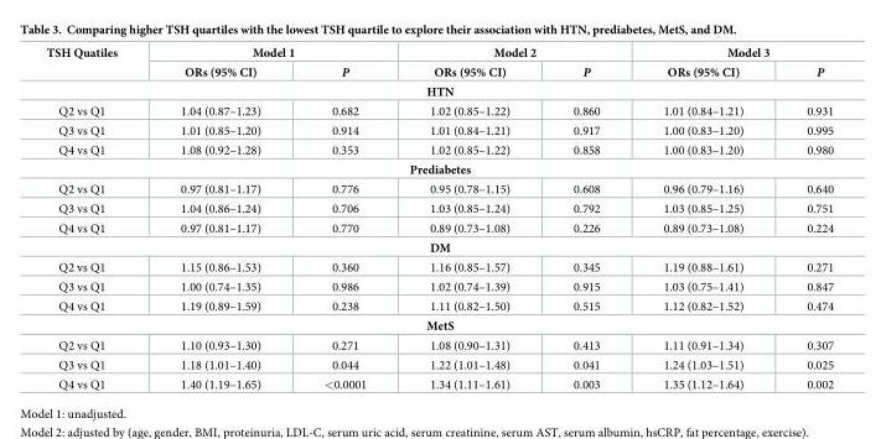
<table><thead><tr><td rowspan="2">TSH Quatiles</td><td colspan="2">Model 1</td><td colspan="2">Model 2</td><td colspan="2">Model 3</td></tr><tr><td>ORs (95% CI)</td><td>P</td><td>ORs (95% CI)</td><td>P</td><td>ORs (95% CI)</td><td>P</td></tr></thead><tbody><tr><td colspan="7">HTN</td></tr><tr><td>Q2 vs Q1</td><td>1.04 (0.87–1.23)</td><td>0.682</td><td>1.02 (0.85–1.22)</td><td>0.860</td><td>1.01 (0.84–1.21)</td><td>0.931</td></tr><tr><td>Q3 vs Q1</td><td>1.01 (0.85–1.20)</td><td>0.914</td><td>1.01 (0.84–1.21)</td><td>0.917</td><td>1.00 (0.83–1.20)</td><td>0.995</td></tr><tr><td>Q4 vs Q1</td><td>1.08 (0.92–1.28)</td><td>0.353</td><td>1.02 (0.85–1.22)</td><td>0.858</td><td>1.00 (0.83–1.20)</td><td>0.980</td></tr><tr><td colspan="7">Prediabetes</td></tr><tr><td>Q2 vs Q1</td><td>0.97 (0.81–1.17)</td><td>0.776</td><td>0.95 (0.78–1.15)</td><td>0.608</td><td>0.96 (0.79–1.16)</td><td>0.640</td></tr><tr><td>Q3 vs Q1</td><td>1.04 (0.86–1.24)</td><td>0.706</td><td>1.03 (0.85–1.24)</td><td>0.792</td><td>1.03 (0.85–1.25)</td><td>0.751</td></tr><tr><td>Q4 vs Q1</td><td>0.97 (0.81–1.17)</td><td>0.770</td><td>0.89 (0.73–1.08)</td><td>0.226</td><td>0.89 (0.73–1.08)</td><td>0.224</td></tr><tr><td colspan="7">DM</td></tr><tr><td>Q2 vs Q1</td><td>1.15 (0.86–1.53)</td><td>0.360</td><td>1.16 (0.85–1.57)</td><td>0.345</td><td>1.19 (0.88–1.61)</td><td>0.271</td></tr><tr><td>Q3 vs Q1</td><td>1.00 (0.74–1.35)</td><td>0.986</td><td>1.02 (0.74–1.39)</td><td>0.915</td><td>1.03 (0.75–1.41)</td><td>0.847</td></tr><tr><td>Q4 vs Q1</td><td>1.19 (0.89–1.59)</td><td>0.238</td><td>1.11 (0.82–1.50)</td><td>0.515</td><td>1.12 (0.82–1.52)</td><td>0.474</td></tr><tr><td colspan="7">MetS</td></tr><tr><td>Q2 vs Q1</td><td>1.10 (0.93–1.30)</td><td>0.271</td><td>1.08 (0.90–1.31)</td><td>0.413</td><td>1.11 (0.91–1.34)</td><td>0.307</td></tr><tr><td>Q3 vs Q1</td><td>1.18 (1.01–1.40)</td><td>0.044</td><td>1.22 (1.01–1.48)</td><td>0.041</td><td>1.24 (1.03–1.51)</td><td>0.025</td></tr><tr><td>Q4 vs Q1</td><td>1.40 (1.19–1.65)</td><td>&lt;0.0001</td><td>1.34 (1.11–1.61)</td><td>0.003</td><td>1.35 (1.12–1.64)</td><td>0.002</td></tr></tbody></table>